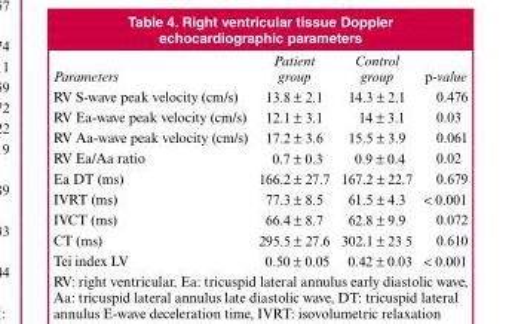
<table><thead><tr><td>Parameters</td><td>Patient group</td><td>Control group</td><td>p-value</td></tr></thead><tbody><tr><td>RV S-wave peak velocity (cm/s)</td><td>13.8 ± 2.1</td><td>14.3 ± 2.1</td><td>0.476</td></tr><tr><td>RV Ea-wave peak velocity (cm/s)</td><td>12.1 ± 3.1</td><td>14 ± 3.1</td><td>0.03</td></tr><tr><td>RV Aa-wave peak velocity (cm/s)</td><td>17.2 ± 3.6</td><td>15.5 ± 3.9</td><td>0.061</td></tr><tr><td>RV Ea/Aa ratio</td><td>0.7 ± 0.3</td><td>0.9 ± 0.4</td><td>0.02</td></tr><tr><td>Ea DT (ms)</td><td>166.2 ± 27.7</td><td>167.2 ± 22.7</td><td>0.679</td></tr><tr><td>IVRT (ms)</td><td>77.3 ± 8.5</td><td>61.5 ± 4.3</td><td>&lt; 0.001</td></tr><tr><td>IVCT (ms)</td><td>66.4 ± 8.7</td><td>62.8 ± 9.9</td><td>0.072</td></tr><tr><td>CT (ms)</td><td>295.5 ± 27.6</td><td>302.1 ± 23 5</td><td>0.610</td></tr><tr><td>Tei index LV</td><td>0.50 ± 0.05</td><td>0.42 ± 0.03</td><td>&lt; 0.001</td></tr></tbody></table>